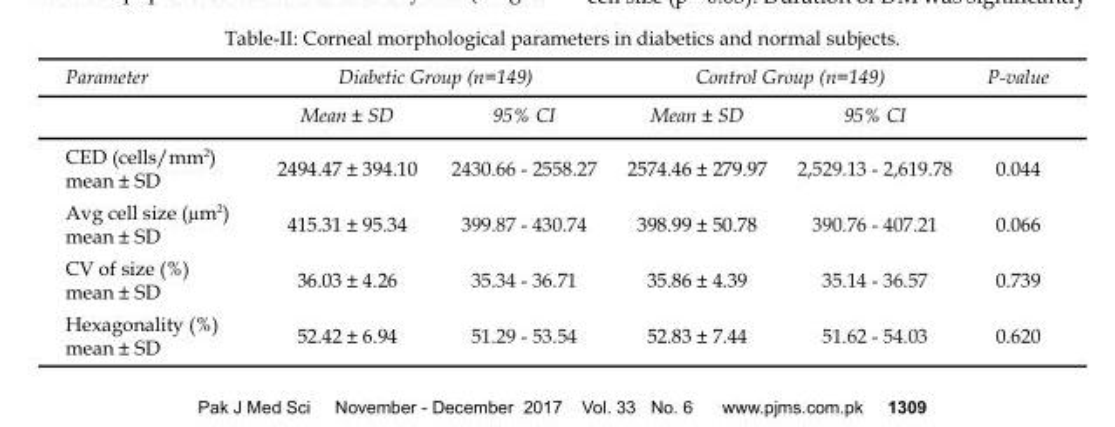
<table><thead><tr><td rowspan="2">Parameter</td><td colspan="2">Diabetic Group (n=149)</td><td colspan="2">Control Group (n=149)</td><td rowspan="2">P-value</td></tr><tr><td>Mean ± SD</td><td>95% CI</td><td>Mean ± SD</td><td>95% CI</td></tr></thead><tbody><tr><td>CED (cells/mm<sup>2</sup>) mean ± SD</td><td>2494.47 ± 394.10</td><td>2430.66 - 2558.27</td><td>2574.46 ± 279.97</td><td>2,529.13 - 2,619.78</td><td>0.044</td></tr><tr><td>Avg cell size (µm<sup>2</sup>) mean ± SD</td><td>415.31 ± 95.34</td><td>399.87 - 430.74</td><td>398.99 ± 50.78</td><td>390.76 - 407.21</td><td>0.066</td></tr><tr><td>CV of size (%) mean ± SD</td><td>36.03 ± 4.26</td><td>35.34 - 36.71</td><td>35.86 ± 4.39</td><td>35.14 - 36.57</td><td>0.739</td></tr><tr><td>Hexagonality (%) mean ± SD</td><td>52.42 ± 6.94</td><td>51.29 - 53.54</td><td>52.83 ± 7.44</td><td>51.62 - 54.03</td><td>0.620</td></tr></tbody></table>